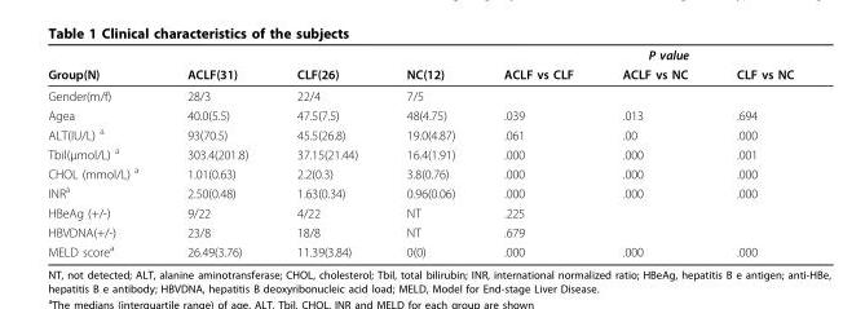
<table><thead><tr><td rowspan="2">Group(N)</td><td rowspan="2">ACLF(31)</td><td rowspan="2">CLF(26)</td><td rowspan="2">NC(12)</td><td colspan="3">P value</td></tr><tr><td>ACLF vs CLF</td><td>ACLF vs NC</td><td>CLF vs NC</td></tr></thead><tbody><tr><td>Gender(m/f)</td><td>28/3</td><td>22/4</td><td>7/5</td><td></td><td></td><td></td></tr><tr><td>Agea</td><td>40.0(5.5)</td><td>47.5(7.5)</td><td>48(4.75)</td><td>.039</td><td>.013</td><td>.694</td></tr><tr><td>ALT(IU/L) <sup>a</sup></td><td>93(70.5)</td><td>45.5(26.8)</td><td>19.0(4.87)</td><td>.061</td><td>.00</td><td>.000</td></tr><tr><td>Tbil(μmol/L) <sup>a</sup></td><td>303.4(201.8)</td><td>37.15(21.44)</td><td>16.4(1.91)</td><td>.000</td><td>.000</td><td>.001</td></tr><tr><td>CHOL (mmol/L) <sup>a</sup></td><td>1.01(0.63)</td><td>2.2(0.3)</td><td>3.8(0.76)</td><td>.000</td><td>.000</td><td>.000</td></tr><tr><td>INR<sup>a</sup></td><td>2.50(0.48)</td><td>1.63(0.34)</td><td>0.96(0.06)</td><td>.000</td><td>.000</td><td>.000</td></tr><tr><td>HBeAg (+/-)</td><td>9/22</td><td>4/22</td><td>NT</td><td>.225</td><td></td><td></td></tr><tr><td>HBVDNA(+/-)</td><td>23/8</td><td>18/8</td><td>NT</td><td>.679</td><td></td><td></td></tr><tr><td>MELD score<sup>a</sup></td><td>26.49(3.76)</td><td>11.39(3.84)</td><td>0(0)</td><td>.000</td><td>.000</td><td>.000</td></tr></tbody></table>